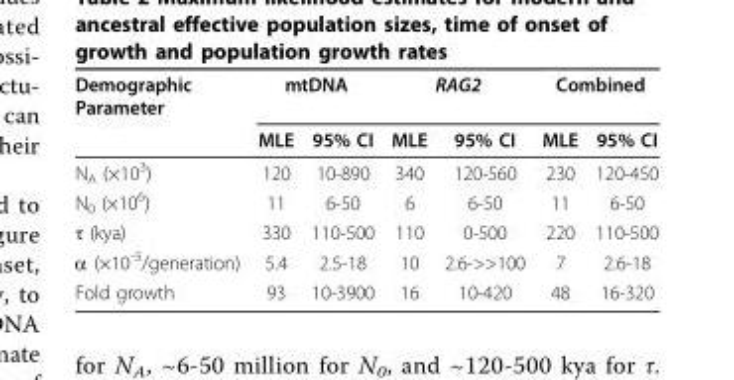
<table><thead><tr><td rowspan="2">Demographic Parameter</td><td colspan="2">mtDNA</td><td colspan="2">RAG2</td><td colspan="2">Combined</td></tr><tr><td>MLE</td><td>95% CI</td><td>MLE</td><td>95% CI</td><td>MLE</td><td>95% CI</td></tr></thead><tbody><tr><td>N<sub>A</sub> (×10<sup>3</sup>)</td><td>120</td><td>10-890</td><td>340</td><td>120-560</td><td>230</td><td>120-450</td></tr><tr><td>N<sub>0</sub> (×10<sup>6</sup>)</td><td>11</td><td>6-50</td><td>6</td><td>6-50</td><td>11</td><td>6-50</td></tr><tr><td>τ (kya)</td><td>330</td><td>110-500</td><td>110</td><td>0-500</td><td>220</td><td>110-500</td></tr><tr><td>α (×10<sup>-5</sup>/generation)</td><td>5.4</td><td>2.5-18</td><td>10</td><td>2.6-&gt;&gt;100</td><td>7</td><td>2.6-18</td></tr><tr><td>Fold growth</td><td>93</td><td>10-3900</td><td>16</td><td>10-420</td><td>48</td><td>16-320</td></tr></tbody></table>